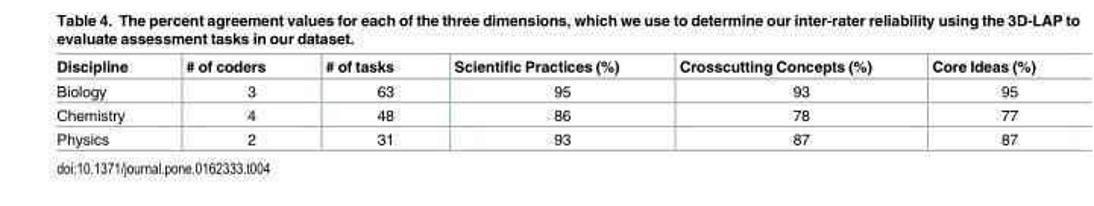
<table><thead><tr><td>Discipline</td><td># of coders</td><td># of tasks</td><td>Scientific Practices (%)</td><td>Crosscutting Concepts (%)</td><td>Core Ideas (%)</td></tr></thead><tbody><tr><td>Biology</td><td>3</td><td>63</td><td>95</td><td>93</td><td>95</td></tr><tr><td>Chemistry</td><td>4</td><td>48</td><td>86</td><td>78</td><td>77</td></tr><tr><td>Physics</td><td>2</td><td>31</td><td>93</td><td>87</td><td>87</td></tr></tbody></table>